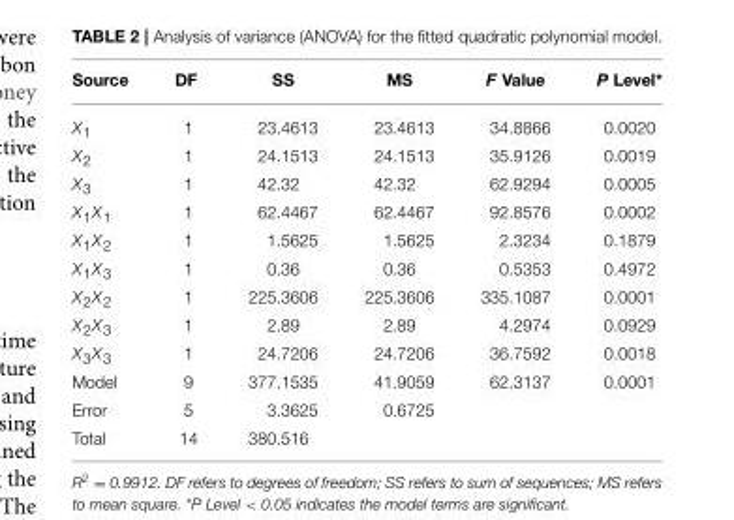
<table><thead><tr><td>Source</td><td>DF</td><td>SS</td><td>MS</td><td>F Value</td><td>P Level*</td></tr></thead><tbody><tr><td>X<sub>1</sub></td><td>1</td><td>23.4613</td><td>23.4613</td><td>34.8866</td><td>0.0020</td></tr><tr><td>X<sub>2</sub></td><td>1</td><td>24.1513</td><td>24.1513</td><td>35.9126</td><td>0.0019</td></tr><tr><td>X<sub>3</sub></td><td>1</td><td>42.32</td><td>42.32</td><td>62.9294</td><td>0.0005</td></tr><tr><td>X<sub>1</sub>X<sub>1</sub></td><td>1</td><td>62.4467</td><td>62.4467</td><td>92.8576</td><td>0.0002</td></tr><tr><td>X<sub>1</sub>X<sub>2</sub></td><td>1</td><td>1.5625</td><td>1.5625</td><td>2.3234</td><td>0.1879</td></tr><tr><td>X<sub>1</sub>X<sub>3</sub></td><td>1</td><td>0.36</td><td>0.36</td><td>0.5353</td><td>0.4972</td></tr><tr><td>X<sub>2</sub>X<sub>2</sub></td><td>1</td><td>225.3606</td><td>225.3606</td><td>335.1087</td><td>0.0001</td></tr><tr><td>X<sub>2</sub>X<sub>3</sub></td><td>1</td><td>2.89</td><td>2.89</td><td>4.2974</td><td>0.0929</td></tr><tr><td>X<sub>3</sub>X<sub>3</sub></td><td>1</td><td>24.7206</td><td>24.7206</td><td>36.7592</td><td>0.0018</td></tr><tr><td>Model</td><td>9</td><td>377.1535</td><td>41.9059</td><td>62.3137</td><td>0.0001</td></tr><tr><td>Error</td><td>5</td><td>3.3625</td><td>0.6725</td><td></td><td></td></tr><tr><td>Total</td><td>14</td><td>380.516</td><td></td><td></td><td></td></tr></tbody></table>